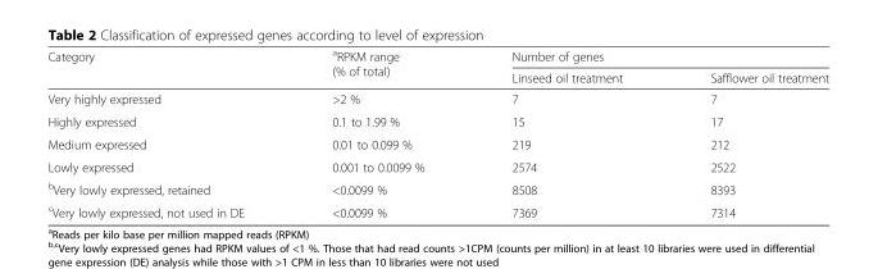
<table><thead><tr><td rowspan="2">Category</td><td rowspan="2"><sup>a</sup>RPKM range (% of total)</td><td colspan="2">Number of genes</td></tr><tr><td>Linseed oil treatment</td><td>Safflower oil treatment</td></tr></thead><tbody><tr><td>Very highly expressed</td><td>&gt;2 %</td><td>7</td><td>7</td></tr><tr><td>Highly expressed</td><td>0.1 to 1.99 %</td><td>15</td><td>17</td></tr><tr><td>Medium expressed</td><td>0.01 to 0.099 %</td><td>219</td><td>212</td></tr><tr><td>Lowly expressed</td><td>0.001 to 0.0099 %</td><td>2574</td><td>2522</td></tr><tr><td><sup>b</sup>Very lowly expressed, retained</td><td>&lt;0.0099 %</td><td>8508</td><td>8393</td></tr><tr><td><sup>c</sup>Very lowly expressed, not used in DE</td><td>&lt;0.0099 %</td><td>7369</td><td>7314</td></tr></tbody></table>